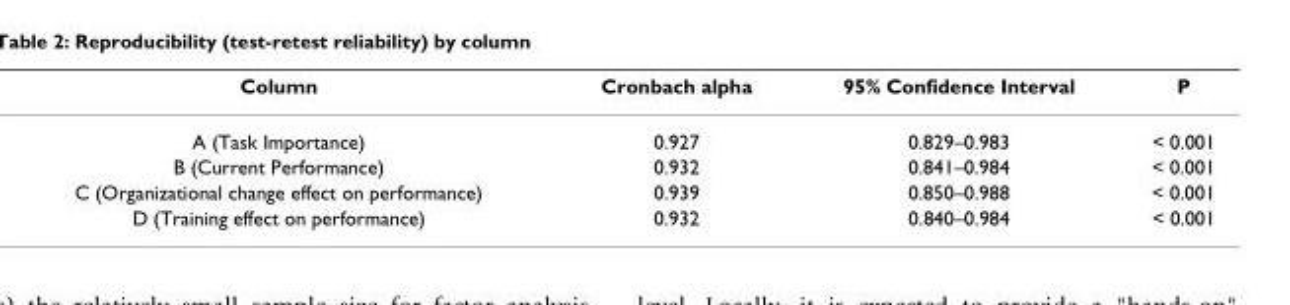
<table><thead><tr><td>Column</td><td>Cronbach alpha</td><td>95% Confidence Interval</td><td>P</td></tr></thead><tbody><tr><td>A (Task Importance)</td><td>0.927</td><td>0.829–0.983</td><td>&lt; 0.001</td></tr><tr><td>B (Current Performance)</td><td>0.932</td><td>0.841–0.984</td><td>&lt; 0.001</td></tr><tr><td>C (Organizational change effect on performance)</td><td>0.939</td><td>0.850–0.988</td><td>&lt; 0.001</td></tr><tr><td>D (Training effect on performance)</td><td>0.932</td><td>0.840–0.984</td><td>&lt; 0.001</td></tr></tbody></table>